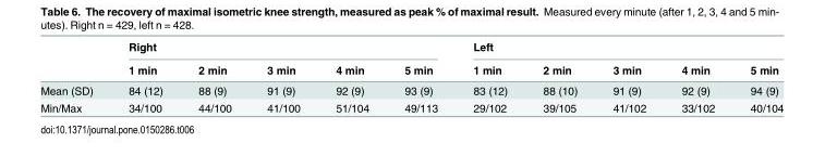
<table><thead><tr><td rowspan="2"></td><td colspan="5">Right</td><td colspan="5">Left</td></tr><tr><td>1 min</td><td>2 min</td><td>3 min</td><td>4 min</td><td>5 min</td><td>1 min</td><td>2 min</td><td>3 min</td><td>4 min</td><td>5 min</td></tr></thead><tbody><tr><td>Mean (SD)</td><td>84 (12)</td><td>88 (9)</td><td>91 (9)</td><td>92 (9)</td><td>93 (9)</td><td>83 (12)</td><td>88 (10)</td><td>91 (9)</td><td>92 (9)</td><td>94 (9)</td></tr><tr><td>Min/Max</td><td>34/100</td><td>44/100</td><td>41/100</td><td>51/104</td><td>49/113</td><td>29/102</td><td>39/105</td><td>41/102</td><td>33/102</td><td>40/104</td></tr></tbody></table>